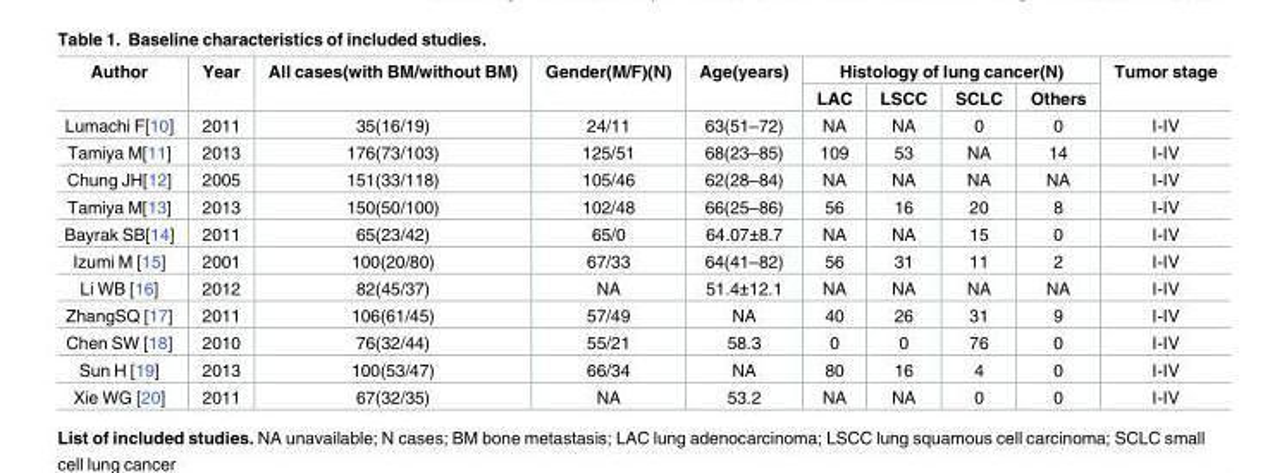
<table><thead><tr><td rowspan="2">Author</td><td rowspan="2">Year</td><td rowspan="2">All cases(with BM/without BM)</td><td rowspan="2">Gender(M/F)(N)</td><td rowspan="2">Age(years)</td><td colspan="4">Histology of lung cancer(N)</td><td rowspan="2">Tumor stage</td></tr><tr><td>LAC</td><td>LSCC</td><td>SCLC</td><td>Others</td></tr></thead><tbody><tr><td>Lumachi F[10]</td><td>2011</td><td>35(16/19)</td><td>24/11</td><td>63(51–72)</td><td>NA</td><td>NA</td><td>0</td><td>0</td><td>I-IV</td></tr><tr><td>Tamiya M[11]</td><td>2013</td><td>176(73/103)</td><td>125/51</td><td>68(23–85)</td><td>109</td><td>53</td><td>NA</td><td>14</td><td>I-IV</td></tr><tr><td>Chung JH[12]</td><td>2005</td><td>151(33/118)</td><td>105/46</td><td>62(28–84)</td><td>NA</td><td>NA</td><td>NA</td><td>NA</td><td>I-IV</td></tr><tr><td>Tamiya M[13]</td><td>2013</td><td>150(50/100)</td><td>102/48</td><td>66(25–86)</td><td>56</td><td>16</td><td>20</td><td>8</td><td>I-IV</td></tr><tr><td>Bayrak SB[14]</td><td>2011</td><td>65(23/42)</td><td>65/0</td><td>64.07±8.7</td><td>NA</td><td>NA</td><td>15</td><td>0</td><td>I-IV</td></tr><tr><td>Izumi M [15]</td><td>2001</td><td>100(20/80)</td><td>67/33</td><td>64(41–82)</td><td>56</td><td>31</td><td>11</td><td>2</td><td>I-IV</td></tr><tr><td>Li WB [16]</td><td>2012</td><td>82(45/37)</td><td>NA</td><td>51.4±12.1</td><td>NA</td><td>NA</td><td>NA</td><td>NA</td><td>I-IV</td></tr><tr><td>ZhangSQ [17]</td><td>2011</td><td>106(61/45)</td><td>57/49</td><td>NA</td><td>40</td><td>26</td><td>31</td><td>9</td><td>I-IV</td></tr><tr><td>Chen SW [18]</td><td>2010</td><td>76(32/44)</td><td>55/21</td><td>58.3</td><td>0</td><td>0</td><td>76</td><td>0</td><td>I-IV</td></tr><tr><td>Sun H [19]</td><td>2013</td><td>100(53/47)</td><td>66/34</td><td>NA</td><td>80</td><td>16</td><td>4</td><td>0</td><td>I-IV</td></tr><tr><td>Xie WG [20]</td><td>2011</td><td>67(32/35)</td><td>NA</td><td>53.2</td><td>NA</td><td>NA</td><td>0</td><td>0</td><td>I-IV</td></tr></tbody></table>